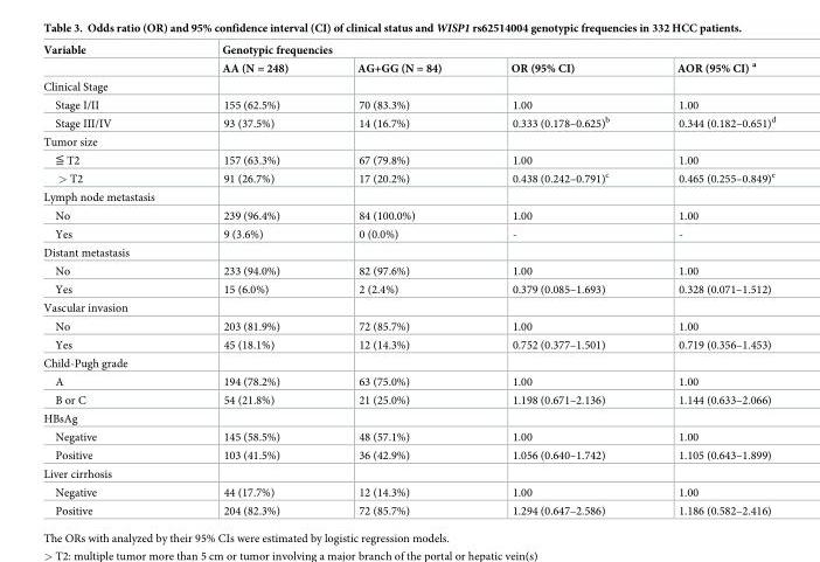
<table><thead><tr><td rowspan="2">Variable</td><td colspan="4">Genotypic frequencies</td></tr><tr><td>AA (N = 248)</td><td>AG+GG (N = 84)</td><td>OR (95% CI)</td><td>AOR (95% CI) <sup>a</sup></td></tr></thead><tbody><tr><td colspan="5">Clinical Stage</td></tr><tr><td>Stage I/II</td><td>155 (62.5%)</td><td>70 (83.3%)</td><td>1.00</td><td>1.00</td></tr><tr><td>Stage III/IV</td><td>93 (37.5%)</td><td>14 (16.7%)</td><td>0.333 (0.178–0.625)<sup>b</sup></td><td>0.344 (0.182–0.651)<sup>d</sup></td></tr><tr><td colspan="5">Tumor size</td></tr><tr><td>≦ T2</td><td>157 (63.3%)</td><td>67 (79.8%)</td><td>1.00</td><td>1.00</td></tr><tr><td>&gt; T2</td><td>91 (26.7%)</td><td>17 (20.2%)</td><td>0.438 (0.242–0.791)<sup>c</sup></td><td>0.465 (0.255–0.849)<sup>e</sup></td></tr><tr><td colspan="5">Lymph node metastasis</td></tr><tr><td>No</td><td>239 (96.4%)</td><td>84 (100.0%)</td><td>1.00</td><td>1.00</td></tr><tr><td>Yes</td><td>9 (3.6%)</td><td>0 (0.0%)</td><td>-</td><td>-</td></tr><tr><td colspan="5">Distant metastasis</td></tr><tr><td>No</td><td>233 (94.0%)</td><td>82 (97.6%)</td><td>1.00</td><td>1.00</td></tr><tr><td>Yes</td><td>15 (6.0%)</td><td>2 (2.4%)</td><td>0.379 (0.085–1.693)</td><td>0.328 (0.071–1.512)</td></tr><tr><td colspan="5">Vascular invasion</td></tr><tr><td>No</td><td>203 (81.9%)</td><td>72 (85.7%)</td><td>1.00</td><td>1.00</td></tr><tr><td>Yes</td><td>45 (18.1%)</td><td>12 (14.3%)</td><td>0.752 (0.377–1.501)</td><td>0.719 (0.356–1.453)</td></tr><tr><td colspan="5">Child-Pugh grade</td></tr><tr><td>A</td><td>194 (78.2%)</td><td>63 (75.0%)</td><td>1.00</td><td>1.00</td></tr><tr><td>B or C</td><td>54 (21.8%)</td><td>21 (25.0%)</td><td>1.198 (0.671–2.136)</td><td>1.144 (0.633–2.066)</td></tr><tr><td colspan="5">HBsAg</td></tr><tr><td>Negative</td><td>145 (58.5%)</td><td>48 (57.1%)</td><td>1.00</td><td>1.00</td></tr><tr><td>Positive</td><td>103 (41.5%)</td><td>36 (42.9%)</td><td>1.056 (0.640–1.742)</td><td>1.105 (0.643–1.899)</td></tr><tr><td colspan="5">Liver cirrhosis</td></tr><tr><td>Negative</td><td>44 (17.7%)</td><td>12 (14.3%)</td><td>1.00</td><td>1.00</td></tr><tr><td>Positive</td><td>204 (82.3%)</td><td>72 (85.7%)</td><td>1.294 (0.647–2.586)</td><td>1.186 (0.582–2.416)</td></tr></tbody></table>